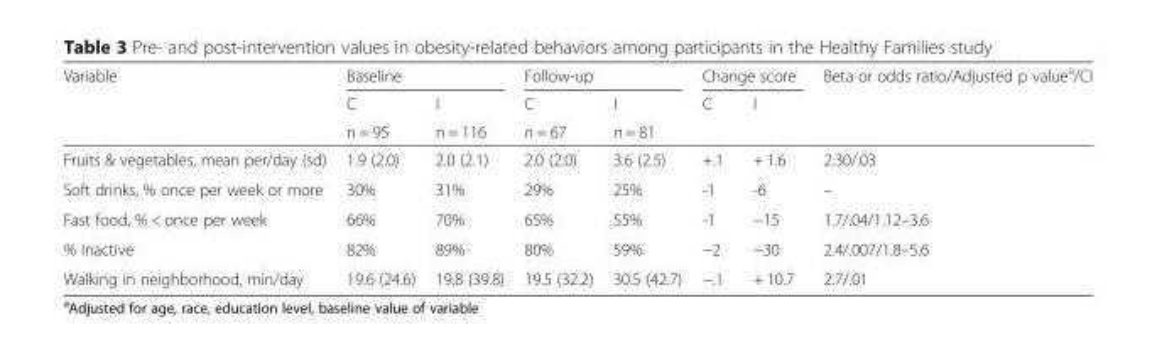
<table><thead><tr><td rowspan="3">Variable</td><td colspan="2">Baseline</td><td colspan="2">Follow-up</td><td colspan="2">Change score</td><td rowspan="3">Beta or odds ratio/Adjusted p value<sup>a</sup>/CI</td></tr><tr><td rowspan="2">C n = 95</td><td rowspan="2">I n = 116</td><td rowspan="2">C n = 67</td><td rowspan="2">I n = 81</td><td rowspan="2">C</td><td rowspan="2">I</td></tr><tr></tr></thead><tbody><tr><td>Fruits &amp; vegetables, mean per/day (sd)</td><td>1.9 (2.0)</td><td>2.0 (2.1)</td><td>2.0 (2.0)</td><td>3.6 (2.5)</td><td>+.1</td><td>+ 1.6</td><td>2.30/.03</td></tr><tr><td>Soft drinks, % once per week or more</td><td>30%</td><td>31%</td><td>29%</td><td>25%</td><td>-1</td><td>-6</td><td>–</td></tr><tr><td>Fast food, % &lt; once per week</td><td>66%</td><td>70%</td><td>65%</td><td>55%</td><td>-1</td><td>−15</td><td>1.7/.04/1.12–3.6</td></tr><tr><td>% Inactive</td><td>82%</td><td>89%</td><td>80%</td><td>59%</td><td>−2</td><td>−30</td><td>2.4/.007/1.8–5.6</td></tr><tr><td>Walking in neighborhood, min/day</td><td>19.6 (24.6)</td><td>19.8 (39.8)</td><td>19.5 (32.2)</td><td>30.5 (42.7)</td><td>−.1</td><td>+ 10.7</td><td>2.7/.01</td></tr></tbody></table>